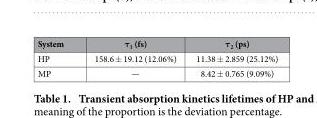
<table><thead><tr><td>System</td><td>τ<sub>1</sub> (fs)</td><td>τ<sub>2</sub> (ps)</td></tr></thead><tbody><tr><td>HP</td><td>158.6 ± 19.12 (12.06%)</td><td>11.38 ± 2.859 (25.12%)</td></tr><tr><td>MP</td><td>—</td><td>8.42 ± 0.765 (9.09%)</td></tr></tbody></table>